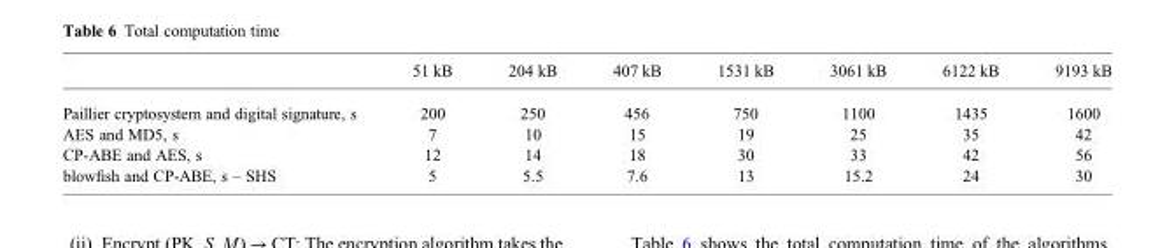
<table><thead><tr><td></td><td>51 kB</td><td>204 kB</td><td>407 kB</td><td>1531 kB</td><td>3061 kB</td><td>6122 kB</td><td>9193 kB</td></tr></thead><tbody><tr><td>Paillier cryptosystem and digital signature, s</td><td>200</td><td>250</td><td>456</td><td>750</td><td>1100</td><td>1435</td><td>1600</td></tr><tr><td>AES and MD5, s</td><td>7</td><td>10</td><td>15</td><td>19</td><td>25</td><td>35</td><td>42</td></tr><tr><td>CP-ABE and AES, s</td><td>12</td><td>14</td><td>18</td><td>30</td><td>33</td><td>42</td><td>56</td></tr><tr><td>blowfish and CP-ABE, s – SHS</td><td>5</td><td>5.5</td><td>7.6</td><td>13</td><td>15.2</td><td>24</td><td>30</td></tr></tbody></table>